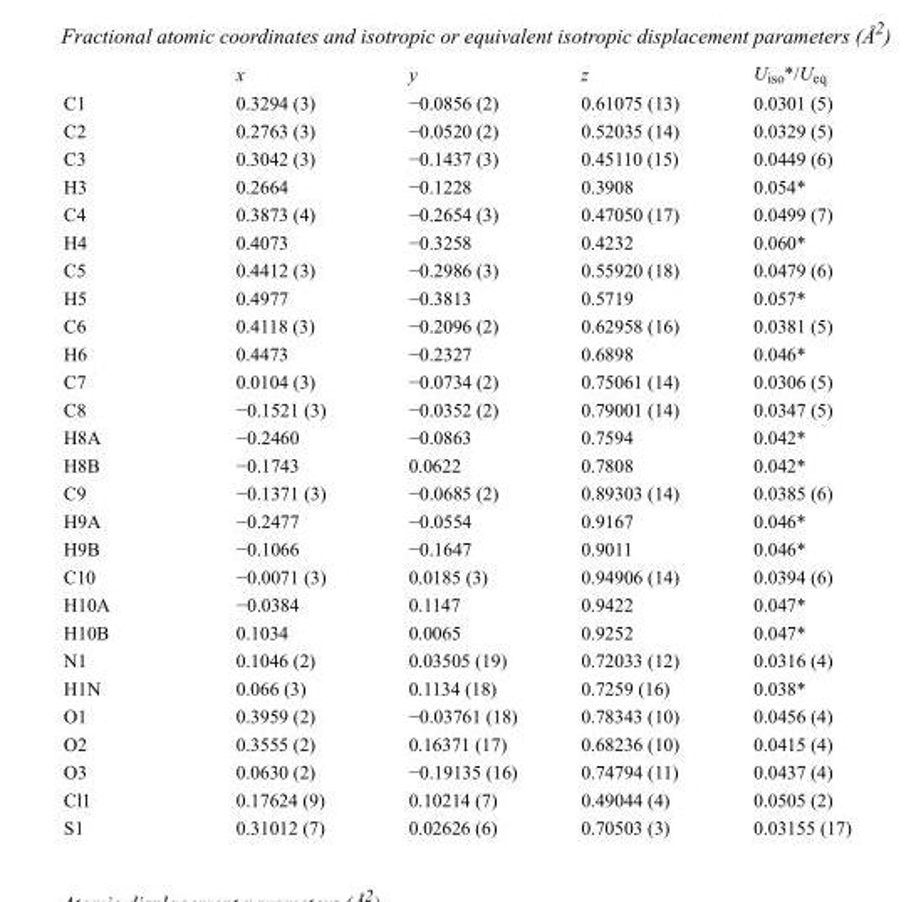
<table><thead><tr><td></td><td>x</td><td>y</td><td>z</td><td>U<sub>iso</sub>*/U<sub>eq</sub></td></tr></thead><tbody><tr><td>C1</td><td>0.3294 (3)</td><td>−0.0856 (2)</td><td>0.61075 (13)</td><td>0.0301 (5)</td></tr><tr><td>C2</td><td>0.2763 (3)</td><td>−0.0520 (2)</td><td>0.52035 (14)</td><td>0.0329 (5)</td></tr><tr><td>C3</td><td>0.3042 (3)</td><td>−0.1437 (3)</td><td>0.45110 (15)</td><td>0.0449 (6)</td></tr><tr><td>H3</td><td>0.2664</td><td>−0.1228</td><td>0.3908</td><td>0.054*</td></tr><tr><td>C4</td><td>0.3873 (4)</td><td>−0.2654 (3)</td><td>0.47050 (17)</td><td>0.0499 (7)</td></tr><tr><td>H4</td><td>0.4073</td><td>−0.3258</td><td>0.4232</td><td>0.060*</td></tr><tr><td>C5</td><td>0.4412 (3)</td><td>−0.2986 (3)</td><td>0.55920 (18)</td><td>0.0479 (6)</td></tr><tr><td>H5</td><td>0.4977</td><td>−0.3813</td><td>0.5719</td><td>0.057*</td></tr><tr><td>C6</td><td>0.4118 (3)</td><td>−0.2096 (2)</td><td>0.62958 (16)</td><td>0.0381 (5)</td></tr><tr><td>H6</td><td>0.4473</td><td>−0.2327</td><td>0.6898</td><td>0.046*</td></tr><tr><td>C7</td><td>0.0104 (3)</td><td>−0.0734 (2)</td><td>0.75061 (14)</td><td>0.0306 (5)</td></tr><tr><td>C8</td><td>−0.1521 (3)</td><td>−0.0352 (2)</td><td>0.79001 (14)</td><td>0.0347 (5)</td></tr><tr><td>H8A</td><td>−0.2460</td><td>−0.0863</td><td>0.7594</td><td>0.042*</td></tr><tr><td>H8B</td><td>−0.1743</td><td>0.0622</td><td>0.7808</td><td>0.042*</td></tr><tr><td>C9</td><td>−0.1371 (3)</td><td>−0.0685 (2)</td><td>0.89303 (14)</td><td>0.0385 (6)</td></tr><tr><td>H9A</td><td>−0.2477</td><td>−0.0554</td><td>0.9167</td><td>0.046*</td></tr><tr><td>H9B</td><td>−0.1066</td><td>−0.1647</td><td>0.9011</td><td>0.046*</td></tr><tr><td>C10</td><td>−0.0071 (3)</td><td>0.0185 (3)</td><td>0.94906 (14)</td><td>0.0394 (6)</td></tr><tr><td>H10A</td><td>−0.0384</td><td>0.1147</td><td>0.9422</td><td>0.047*</td></tr><tr><td>H10B</td><td>0.1034</td><td>0.0065</td><td>0.9252</td><td>0.047*</td></tr><tr><td>N1</td><td>0.1046 (2)</td><td>0.03505 (19)</td><td>0.72033 (12)</td><td>0.0316 (4)</td></tr><tr><td>H1N</td><td>0.066 (3)</td><td>0.1134 (18)</td><td>0.7259 (16)</td><td>0.038*</td></tr><tr><td>O1</td><td>0.3959 (2)</td><td>−0.03761 (18)</td><td>0.78343 (10)</td><td>0.0456 (4)</td></tr><tr><td>O2</td><td>0.3555 (2)</td><td>0.16371 (17)</td><td>0.68236 (10)</td><td>0.0415 (4)</td></tr><tr><td>O3</td><td>0.0630 (2)</td><td>−0.19135 (16)</td><td>0.74794 (11)</td><td>0.0437 (4)</td></tr><tr><td>Cl1</td><td>0.17624 (9)</td><td>0.10214 (7)</td><td>0.49044 (4)</td><td>0.0505 (2)</td></tr><tr><td>S1</td><td>0.31012 (7)</td><td>0.02626 (6)</td><td>0.70503 (3)</td><td>0.03155 (17)</td></tr></tbody></table>